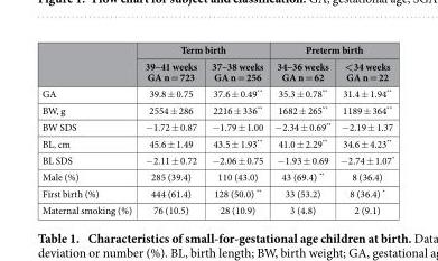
<table><thead><tr><td rowspan="2"></td><td colspan="2">Term birth</td><td colspan="2">Preterm birth</td></tr><tr><td>39–41 weeks GA n = 723</td><td>37–38 weeks GA n = 256</td><td>34–36 weeks GA n = 62</td><td>&lt;34 weeks GA n = 22</td></tr></thead><tbody><tr><td>GA</td><td>39.8 ± 0.75</td><td>37.6 ± 0.49**</td><td>35.3 ± 0.78**</td><td>31.4 ± 1.94**</td></tr><tr><td>BW, g</td><td>2554 ± 286</td><td>2216 ± 336**</td><td>1682 ± 265**</td><td>1189 ± 364**</td></tr><tr><td>BW SDS</td><td>− 1.72 ± 0.87</td><td>− 1.79 ± 1.00</td><td>− 2.34 ± 0.69**</td><td>− 2.19 ± 1.37</td></tr><tr><td>BL, cm</td><td>45.6 ± 1.49</td><td>43.5 ± 1.93**</td><td>41.0 ± 2.29**</td><td>34.6 ± 4.23**</td></tr><tr><td>BL SDS</td><td>− 2.11 ± 0.72</td><td>− 2.06 ± 0.75</td><td>− 1.93 ± 0.69</td><td>− 2.74 ± 1.07*</td></tr><tr><td>Male (%)</td><td>285 (39.4)</td><td>110 (43.0)</td><td>43 (69.4) **</td><td>8 (36.4)</td></tr><tr><td>First birth (%)</td><td>444 (61.4)</td><td>128 (50.0) **</td><td>33 (53.2)</td><td>8 (36.4) *</td></tr><tr><td>Maternal smoking (%)</td><td>76 (10.5)</td><td>28 (10.9)</td><td>3 (4.8)</td><td>2 (9.1)</td></tr></tbody></table>